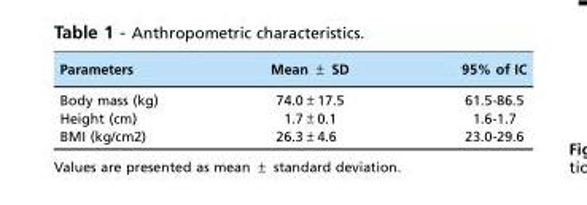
<table><thead><tr><td>Parameters</td><td>Mean ± SD</td><td>95% of IC</td></tr></thead><tbody><tr><td>Body mass (kg)</td><td>74.0±17.5</td><td>61.5-86.5</td></tr><tr><td>Height (cm)</td><td>1.7±0.1</td><td>1.6-1.7</td></tr><tr><td>BMI (kg/cm2)</td><td>26.3±4.6</td><td>23.0-29.6</td></tr></tbody></table>